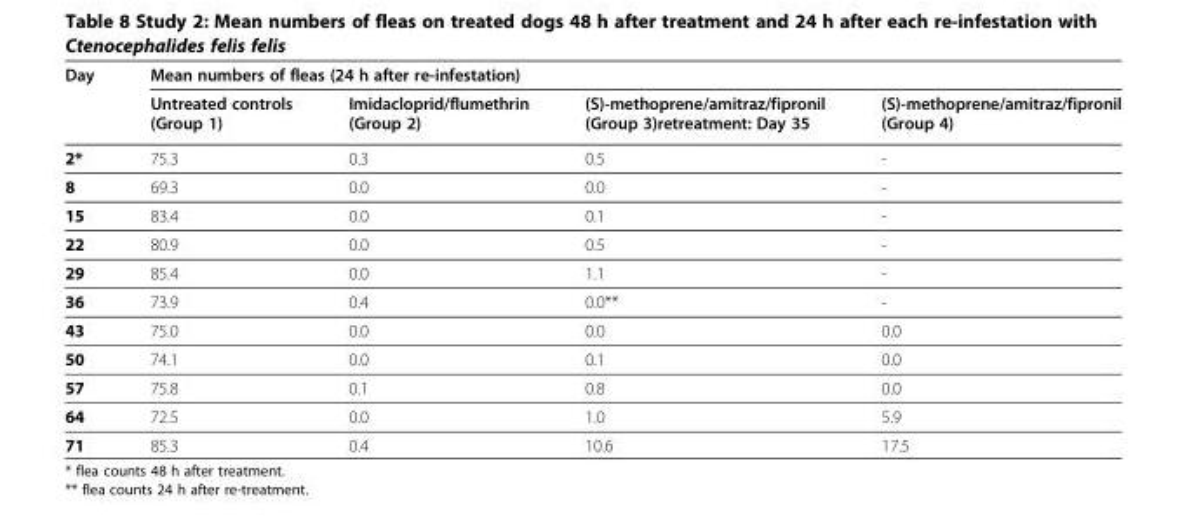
<table><thead><tr><td rowspan="2">Day</td><td colspan="4">Mean numbers of fleas (24 h after re-infestation)</td></tr><tr><td>Untreated controls (Group 1)</td><td>Imidacloprid/flumethrin (Group 2)</td><td>(S)-methoprene/amitraz/fipronil (Group 3)retreatment: Day 35</td><td>(S)-methoprene/amitraz/fipronil (Group 4)</td></tr></thead><tbody><tr><td>2*</td><td>75.3</td><td>0.3</td><td>0.5</td><td>-</td></tr><tr><td>8</td><td>69.3</td><td>0.0</td><td>0.0</td><td>-</td></tr><tr><td>15</td><td>83.4</td><td>0.0</td><td>0.1</td><td>-</td></tr><tr><td>22</td><td>80.9</td><td>0.0</td><td>0.5</td><td>-</td></tr><tr><td>29</td><td>85.4</td><td>0.0</td><td>1.1</td><td>-</td></tr><tr><td>36</td><td>73.9</td><td>0.4</td><td>0.0**</td><td>-</td></tr><tr><td>43</td><td>75.0</td><td>0.0</td><td>0.0</td><td>0.0</td></tr><tr><td>50</td><td>74.1</td><td>0.0</td><td>0.1</td><td>0.0</td></tr><tr><td>57</td><td>75.8</td><td>0.1</td><td>0.8</td><td>0.0</td></tr><tr><td>64</td><td>72.5</td><td>0.0</td><td>1.0</td><td>5.9</td></tr><tr><td>71</td><td>85.3</td><td>0.4</td><td>10.6</td><td>17.5</td></tr></tbody></table>